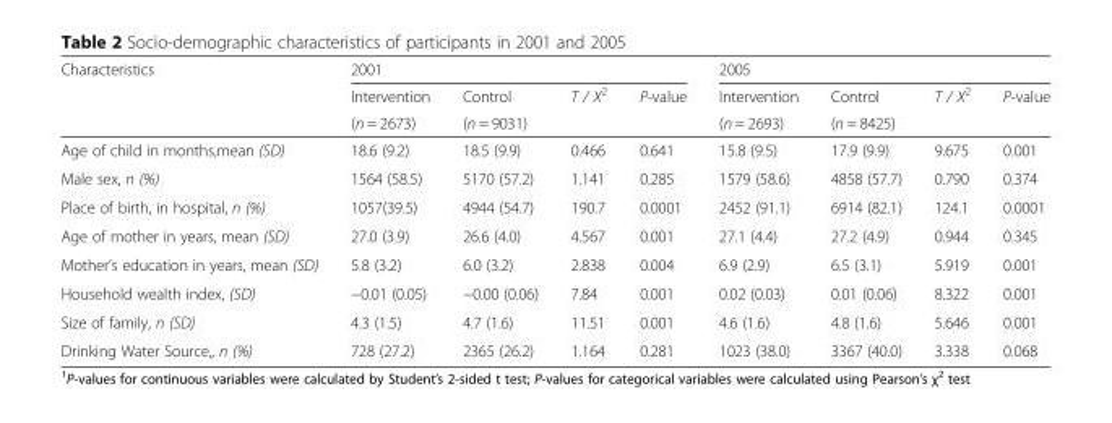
<table><thead><tr><td rowspan="3">Characteristics</td><td colspan="4">2001</td><td colspan="4">2005</td></tr><tr><td rowspan="2">Intervention (n = 2673)</td><td rowspan="2">Control (n = 9031)</td><td rowspan="2">T / X<sup>2</sup></td><td rowspan="2">P-value</td><td rowspan="2">Intervention (n = 2693)</td><td rowspan="2">Control (n = 8425)</td><td rowspan="2">T / X<sup>2</sup></td><td rowspan="2">P-value</td></tr><tr></tr></thead><tbody><tr><td>Age of child in months,mean (SD)</td><td>18.6 (9.2)</td><td>18.5 (9.9)</td><td>0.466</td><td>0.641</td><td>15.8 (9.5)</td><td>17.9 (9.9)</td><td>9.675</td><td>0.001</td></tr><tr><td>Male sex, n (%)</td><td>1564 (58.5)</td><td>5170 (57.2)</td><td>1.141</td><td>0.285</td><td>1579 (58.6)</td><td>4858 (57.7)</td><td>0.790</td><td>0.374</td></tr><tr><td>Place of birth, in hospital, n (%)</td><td>1057(39.5)</td><td>4944 (54.7)</td><td>190.7</td><td>0.0001</td><td>2452 (91.1)</td><td>6914 (82.1)</td><td>124.1</td><td>0.0001</td></tr><tr><td>Age of mother in years, mean (SD)</td><td>27.0 (3.9)</td><td>26.6 (4.0)</td><td>4.567</td><td>0.001</td><td>27.1 (4.4)</td><td>27.2 (4.9)</td><td>0.944</td><td>0.345</td></tr><tr><td>Mother’s education in years, mean (SD)</td><td>5.8 (3.2)</td><td>6.0 (3.2)</td><td>2.838</td><td>0.004</td><td>6.9 (2.9)</td><td>6.5 (3.1)</td><td>5.919</td><td>0.001</td></tr><tr><td>Household wealth index, (SD)</td><td>−0.01 (0.05)</td><td>−0.00 (0.06)</td><td>7.84</td><td>0.001</td><td>0.02 (0.03)</td><td>0.01 (0.06)</td><td>8.322</td><td>0.001</td></tr><tr><td>Size of family, n (SD)</td><td>4.3 (1.5)</td><td>4.7 (1.6)</td><td>11.51</td><td>0.001</td><td>4.6 (1.6)</td><td>4.8 (1.6)</td><td>5.646</td><td>0.001</td></tr><tr><td>Drinking Water Source,, n (%)</td><td>728 (27.2)</td><td>2365 (26.2)</td><td>1.164</td><td>0.281</td><td>1023 (38.0)</td><td>3367 (40.0)</td><td>3.338</td><td>0.068</td></tr></tbody></table>